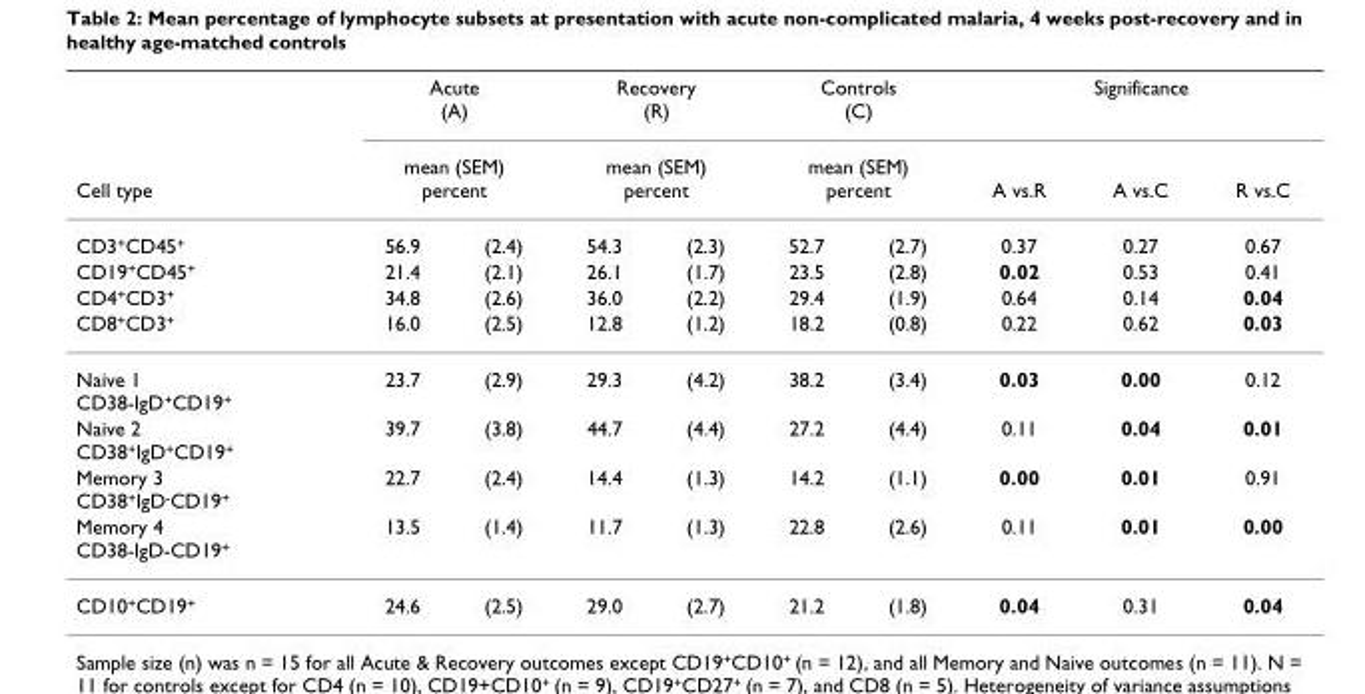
<table><thead><tr><td rowspan="3">Cell type CD3+CD45+</td><td rowspan="2" colspan="2">Acute (A) mean (SEM) percent</td><td rowspan="2" colspan="2">Recovery (R) mean (SEM) percent</td><td rowspan="2" colspan="2">Controls (C) mean (SEM) percent</td><td colspan="3">Significance</td></tr><tr><td rowspan="2">A vs.R 0.37</td><td rowspan="2">A vs.C 0.27</td><td rowspan="2">R vs.C 0.67</td></tr><tr><td>56.9</td><td>(2.4)</td><td>54.3</td><td>(2.3)</td><td>52.7</td><td>(2.7)</td></tr></thead><tbody><tr><td>CD19+CD45+</td><td>21.4</td><td>(2.1)</td><td>26.1</td><td>(1.7)</td><td>23.5</td><td>(2.8)</td><td>0.02</td><td>0.53</td><td>0.41</td></tr><tr><td>CD4+CD3+</td><td>34.8</td><td>(2.6)</td><td>36.0</td><td>(2.2)</td><td>29.4</td><td>(1.9)</td><td>0.64</td><td>0.14</td><td>0.04</td></tr><tr><td>CD8+CD3+</td><td>16.0</td><td>(2.5)</td><td>12.8</td><td>(1.2)</td><td>18.2</td><td>(0.8)</td><td>0.22</td><td>0.62</td><td>0.03</td></tr><tr><td>Naive 1 CD38-IgD+CD19+</td><td>23.7</td><td>(2.9)</td><td>29.3</td><td>(4.2)</td><td>38.2</td><td>(3.4)</td><td>0.03</td><td>0.00</td><td>0.12</td></tr><tr><td>Naive 2 CD38+IgD+CD19+</td><td>39.7</td><td>(3.8)</td><td>44.7</td><td>(4.4)</td><td>27.2</td><td>(4.4)</td><td>0.11</td><td>0.04</td><td>0.01</td></tr><tr><td>Memory 3 CD38+IgD-CD19+</td><td>22.7</td><td>(2.4)</td><td>14.4</td><td>(1.3)</td><td>14.2</td><td>(1.1)</td><td>0.00</td><td>0.01</td><td>0.91</td></tr><tr><td>Memory 4 CD38-IgD-CD19+</td><td>13.5</td><td>(1.4)</td><td>11.7</td><td>(1.3)</td><td>22.8</td><td>(2.6)</td><td>0.11</td><td>0.01</td><td>0.00</td></tr><tr><td>CD10+CD19+</td><td>24.6</td><td>(2.5)</td><td>29.0</td><td>(2.7)</td><td>21.2</td><td>(1.8)</td><td>0.04</td><td>0.31</td><td>0.04</td></tr></tbody></table>